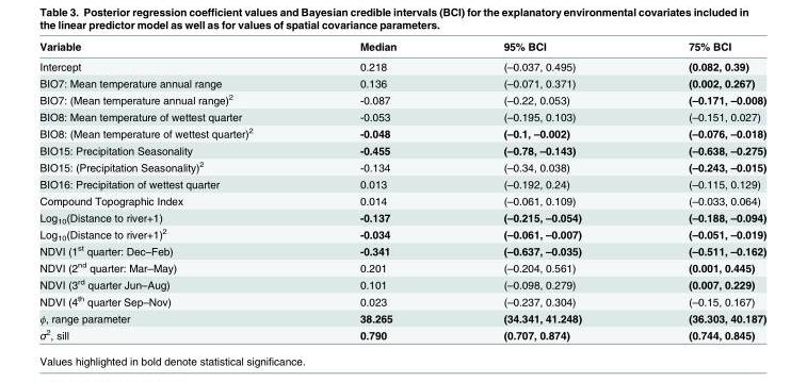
<table><thead><tr><td>Variable</td><td>Median</td><td>95% BCI</td><td>75% BCI</td></tr></thead><tbody><tr><td>Intercept</td><td>0.218</td><td>(–0.037, 0.495)</td><td>(0.082, 0.39)</td></tr><tr><td>BIO7: Mean temperature annual range</td><td>0.136</td><td>(–0.071, 0.371)</td><td>(0.002, 0.267)</td></tr><tr><td>BIO7: (Mean temperature annual range)<sup>2</sup></td><td>-0.087</td><td>(–0.22, 0.053)</td><td>(–0.171, –0.008)</td></tr><tr><td>BIO8: Mean temperature of wettest quarter</td><td>-0.053</td><td>(–0.195, 0.103)</td><td>(–0.151, 0.027)</td></tr><tr><td>BIO8: (Mean temperature of wettest quarter)<sup>2</sup></td><td>-0.048</td><td>(–0.1, –0.002)</td><td>(–0.076, –0.018)</td></tr><tr><td>BIO15: Precipitation Seasonality</td><td>-0.455</td><td>(–0.78, –0.143)</td><td>(–0.638, –0.275)</td></tr><tr><td>BIO15: (Precipitation Seasonality)<sup>2</sup></td><td>-0.134</td><td>(–0.34, 0.038)</td><td>(–0.243, –0.015)</td></tr><tr><td>BIO16: Precipitation of wettest quarter</td><td>0.013</td><td>(–0.192, 0.24)</td><td>(–0.115, 0.129)</td></tr><tr><td>Compound Topographic Index</td><td>0.014</td><td>(–0.061, 0.109)</td><td>(–0.033, 0.064)</td></tr><tr><td>Log<sub>10</sub>(Distance to river+1)</td><td>-0.137</td><td>(–0.215, –0.054)</td><td>(–0.188, –0.094)</td></tr><tr><td>Log<sub>10</sub>(Distance to river+1)<sup>2</sup></td><td>-0.034</td><td>(–0.061, –0.007)</td><td>(–0.051, –0.019)</td></tr><tr><td>NDVI (1<sup>st</sup> quarter: Dec–Feb)</td><td>-0.341</td><td>(–0.637, –0.035)</td><td>(–0.511, –0.162)</td></tr><tr><td>NDVI (2<sup>nd</sup> quarter: Mar–May)</td><td>0.201</td><td>(–0.204, 0.561)</td><td>(0.001, 0.445)</td></tr><tr><td>NDVI (3<sup>rd</sup> quarter Jun–Aug)</td><td>0.101</td><td>(–0.098, 0.279)</td><td>(0.007, 0.229)</td></tr><tr><td>NDVI (4<sup>th</sup> quarter Sep–Nov)</td><td>0.023</td><td>(–0.237, 0.304)</td><td>(–0.15, 0.167)</td></tr><tr><td>ϕ, range parameter</td><td>38.265</td><td>(34.341, 41.248)</td><td>(36.303, 40.187)</td></tr><tr><td>σ<sup>2</sup>, sill</td><td>0.790</td><td>(0.707, 0.874)</td><td>(0.744, 0.845)</td></tr></tbody></table>